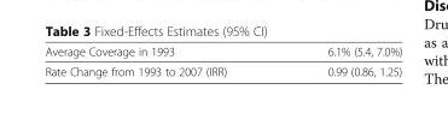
<table><thead><tr><td>Average Coverage in 1993</td><td>6.1% (5.4, 7.0%)</td></tr></thead><tbody><tr><td>Rate Change from 1993 to 2007 (IRR)</td><td>0.99 (0.86, 1.25)</td></tr></tbody></table>